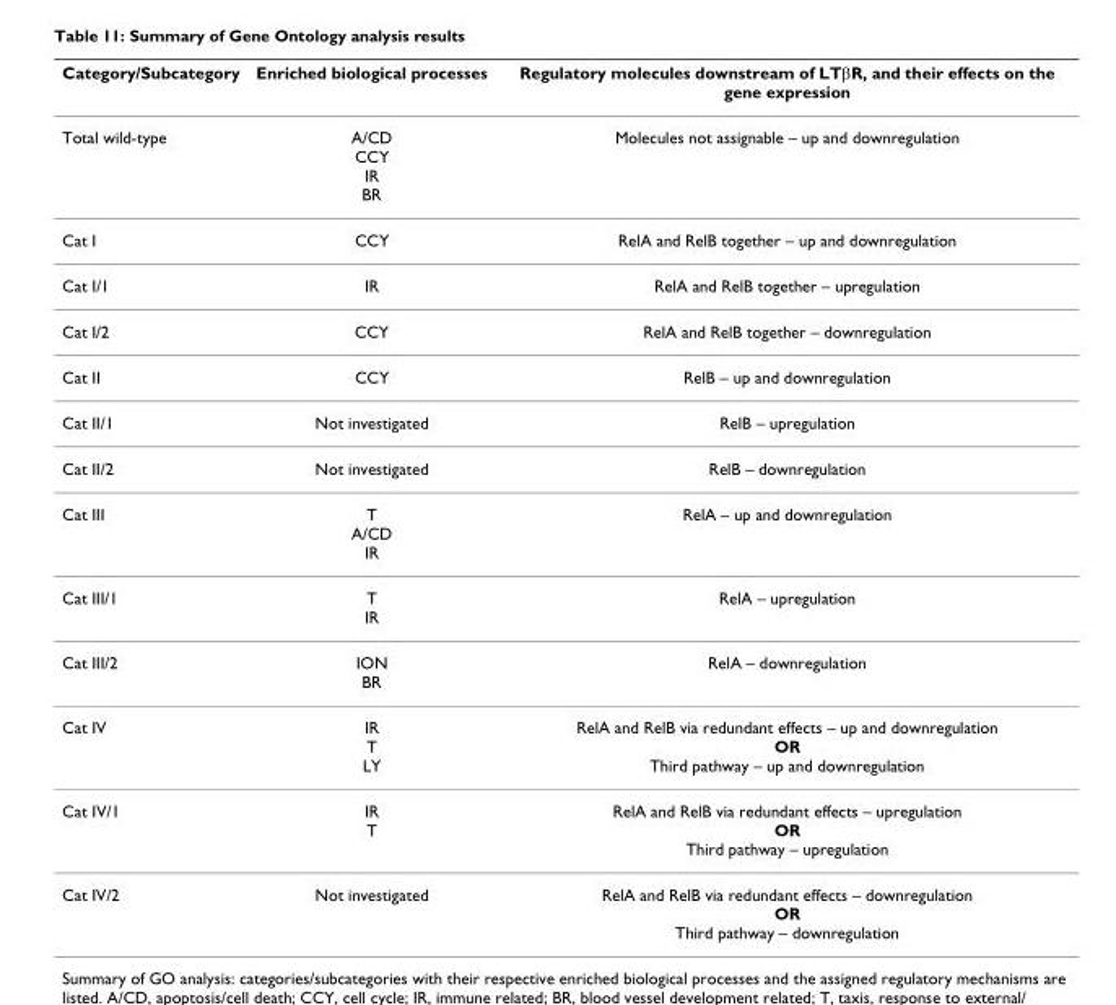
<table><thead><tr><td>Category/Subcategory</td><td>Enriched biological processes</td><td>Regulatory molecules downstream of LTβR, and their effects on the gene expression</td></tr></thead><tbody><tr><td>Total wild-type</td><td>A/CD CCY IR BR</td><td>Molecules not assignable – up and downregulation</td></tr><tr><td>Cat I</td><td>CCY</td><td>RelA and RelB together – up and downregulation</td></tr><tr><td>Cat I/1</td><td>IR</td><td>RelA and RelB together – upregulation</td></tr><tr><td>Cat I/2</td><td>CCY</td><td>RelA and RelB together – downregulation</td></tr><tr><td>Cat II</td><td>CCY</td><td>RelB – up and downregulation</td></tr><tr><td>Cat II/1</td><td>Not investigated</td><td>RelB – upregulation</td></tr><tr><td>Cat II/2</td><td>Not investigated</td><td>RelB – downregulation</td></tr><tr><td>Cat III</td><td>T A/CD IR</td><td>RelA – up and downregulation</td></tr><tr><td>Cat III/1</td><td>T IR</td><td>RelA – upregulation</td></tr><tr><td>Cat III/2</td><td>ION BR</td><td>RelA – downregulation</td></tr><tr><td>Cat IV</td><td>IR T LY</td><td>RelA and RelB via redundant effects – up and downregulation OR Third pathway – up and downregulation</td></tr><tr><td>Cat IV/1</td><td>IR T</td><td>RelA and RelB via redundant effects – upregulation OR Third pathway – upregulation</td></tr><tr><td>Cat IV/2</td><td>Not investigated</td><td>RelA and RelB via redundant effects – downregulation OR Third pathway – downregulation</td></tr></tbody></table>